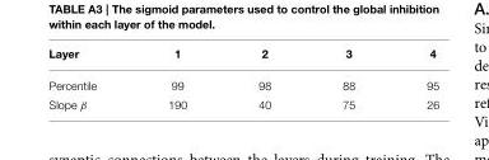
<table><thead><tr><td>Layer</td><td>1</td><td>2</td><td>3</td><td>4</td></tr></thead><tbody><tr><td>Percentile</td><td>99</td><td>98</td><td>88</td><td>95</td></tr><tr><td>Slope β</td><td>190</td><td>40</td><td>75</td><td>26</td></tr></tbody></table>